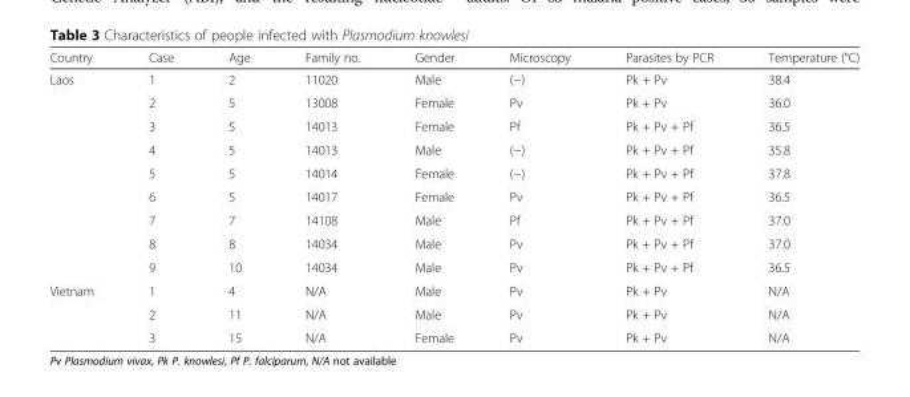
<table><thead><tr><td>Country</td><td>Case</td><td>Age</td><td>Family no.</td><td>Gender</td><td>Microscopy</td><td>Parasites by PCR</td><td>Temperature (°C)</td></tr></thead><tbody><tr><td rowspan="9">Laos</td><td>1</td><td>2</td><td>11020</td><td>Male</td><td>(−)</td><td>Pk + Pv</td><td>38.4</td></tr><tr><td>2</td><td>5</td><td>13008</td><td>Female</td><td>Pv</td><td>Pk + Pv</td><td>36.0</td></tr><tr><td>3</td><td>5</td><td>14013</td><td>Female</td><td>Pf</td><td>Pk + Pv + Pf</td><td>36.5</td></tr><tr><td>4</td><td>5</td><td>14013</td><td>Male</td><td>(−)</td><td>Pk + Pv + Pf</td><td>35.8</td></tr><tr><td>5</td><td>5</td><td>14014</td><td>Female</td><td>(−)</td><td>Pk + Pv + Pf</td><td>37.8</td></tr><tr><td>6</td><td>5</td><td>14017</td><td>Female</td><td>Pv</td><td>Pk + Pv + Pf</td><td>36.5</td></tr><tr><td>7</td><td>7</td><td>14108</td><td>Male</td><td>Pf</td><td>Pk + Pv + Pf</td><td>37.0</td></tr><tr><td>8</td><td>8</td><td>14034</td><td>Male</td><td>Pv</td><td>Pk + Pv + Pf</td><td>37.0</td></tr><tr><td>9</td><td>10</td><td>14034</td><td>Male</td><td>Pv</td><td>Pk + Pv + Pf</td><td>36.5</td></tr><tr><td rowspan="3">Vietnam</td><td>1</td><td>4</td><td>N/A</td><td>Male</td><td>Pv</td><td>Pk + Pv</td><td>N/A</td></tr><tr><td>2</td><td>11</td><td>N/A</td><td>Male</td><td>Pv</td><td>Pk + Pv</td><td>N/A</td></tr><tr><td>3</td><td>15</td><td>N/A</td><td>Female</td><td>Pv</td><td>Pk + Pv</td><td>N/A</td></tr></tbody></table>